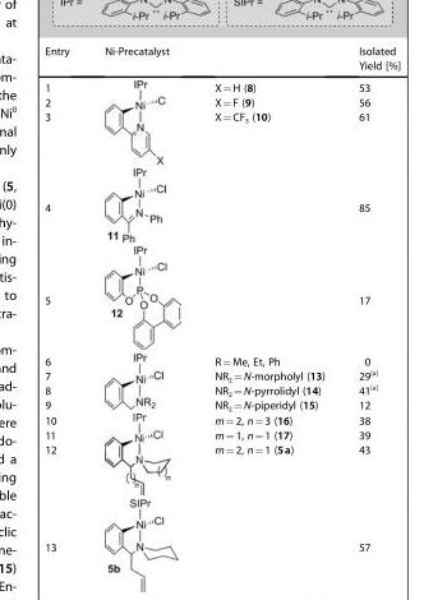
<table><thead><tr><td rowspan="2">Entry</td><td rowspan="2">Ni-Precatalyst</td><td rowspan="2"></td><td rowspan="2">Isolated Yield [%]</td></tr><tr></tr></thead><tbody><tr><td>1</td><td rowspan="3"></td><td>X=H (8)</td><td>53</td></tr><tr><td>2</td><td>X=F (9)</td><td>56</td></tr><tr><td>3</td><td>X=CF<sub>3</sub> (10)</td><td>61</td></tr><tr><td>4</td><td></td><td></td><td>85</td></tr><tr><td>5</td><td></td><td></td><td>17</td></tr><tr><td>6</td><td rowspan="4"></td><td>R=Me, Et, Ph</td><td>0</td></tr><tr><td>7</td><td>NR<sub>2</sub>=N-morpholyl (13)</td><td>29<sup>[a]</sup></td></tr><tr><td>8</td><td>NR<sub>2</sub>=N-pyrrolidyl (14)</td><td>41<sup>[a]</sup></td></tr><tr><td>9</td><td>NR<sub>2</sub>=N-piperidyl (15)</td><td>12</td></tr><tr><td>10</td><td rowspan="3"></td><td>m=2, n=3 (16)</td><td>38</td></tr><tr><td>11</td><td>m=1, n=1 (17)</td><td>39</td></tr><tr><td>12</td><td>m=2, n=1 (5a)</td><td>43</td></tr><tr><td>13</td><td></td><td></td><td>57</td></tr></tbody></table>